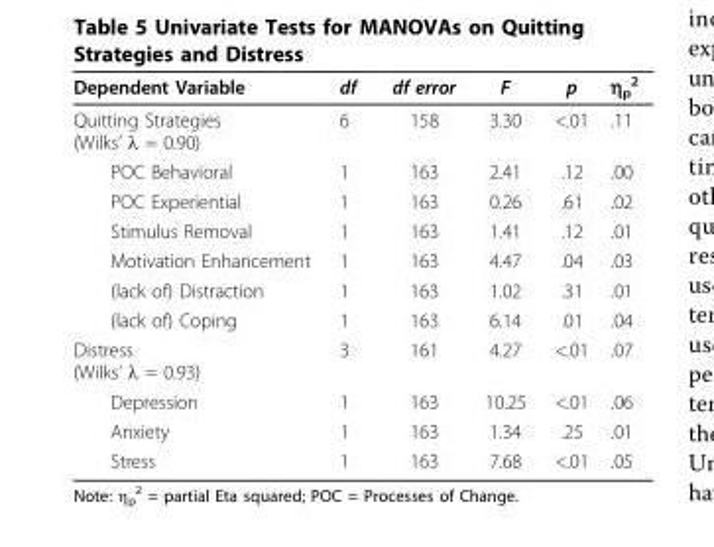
<table><thead><tr><td>Dependent Variable</td><td>df</td><td>df error</td><td>F</td><td>p</td><td>η<sub>p</sub> <sup>2</sup></td></tr></thead><tbody><tr><td>Quitting Strategies (Wilks’ λ = 0.90)</td><td>6</td><td>158</td><td>3.30</td><td>&lt;.01</td><td>.11</td></tr><tr><td>POC Behavioral</td><td>1</td><td>163</td><td>2.41</td><td>.12</td><td>.00</td></tr><tr><td>POC Experiential</td><td>1</td><td>163</td><td>0.26</td><td>.61</td><td>.02</td></tr><tr><td>Stimulus Removal</td><td>1</td><td>163</td><td>1.41</td><td>.12</td><td>.01</td></tr><tr><td>Motivation Enhancement</td><td>1</td><td>163</td><td>4.47</td><td>.04</td><td>.03</td></tr><tr><td>(lack of) Distraction</td><td>1</td><td>163</td><td>1.02</td><td>.31</td><td>.01</td></tr><tr><td>(lack of) Coping</td><td>1</td><td>163</td><td>6.14</td><td>.01</td><td>.04</td></tr><tr><td>Distress (Wilks’ λ = 0.93)</td><td>3</td><td>161</td><td>4.27</td><td>&lt;.01</td><td>.07</td></tr><tr><td>Depression</td><td>1</td><td>163</td><td>10.25</td><td>&lt;.01</td><td>.06</td></tr><tr><td>Anxiety</td><td>1</td><td>163</td><td>1.34</td><td>.25</td><td>.01</td></tr><tr><td>Stress</td><td>1</td><td>163</td><td>7.68</td><td>&lt;.01</td><td>.05</td></tr></tbody></table>